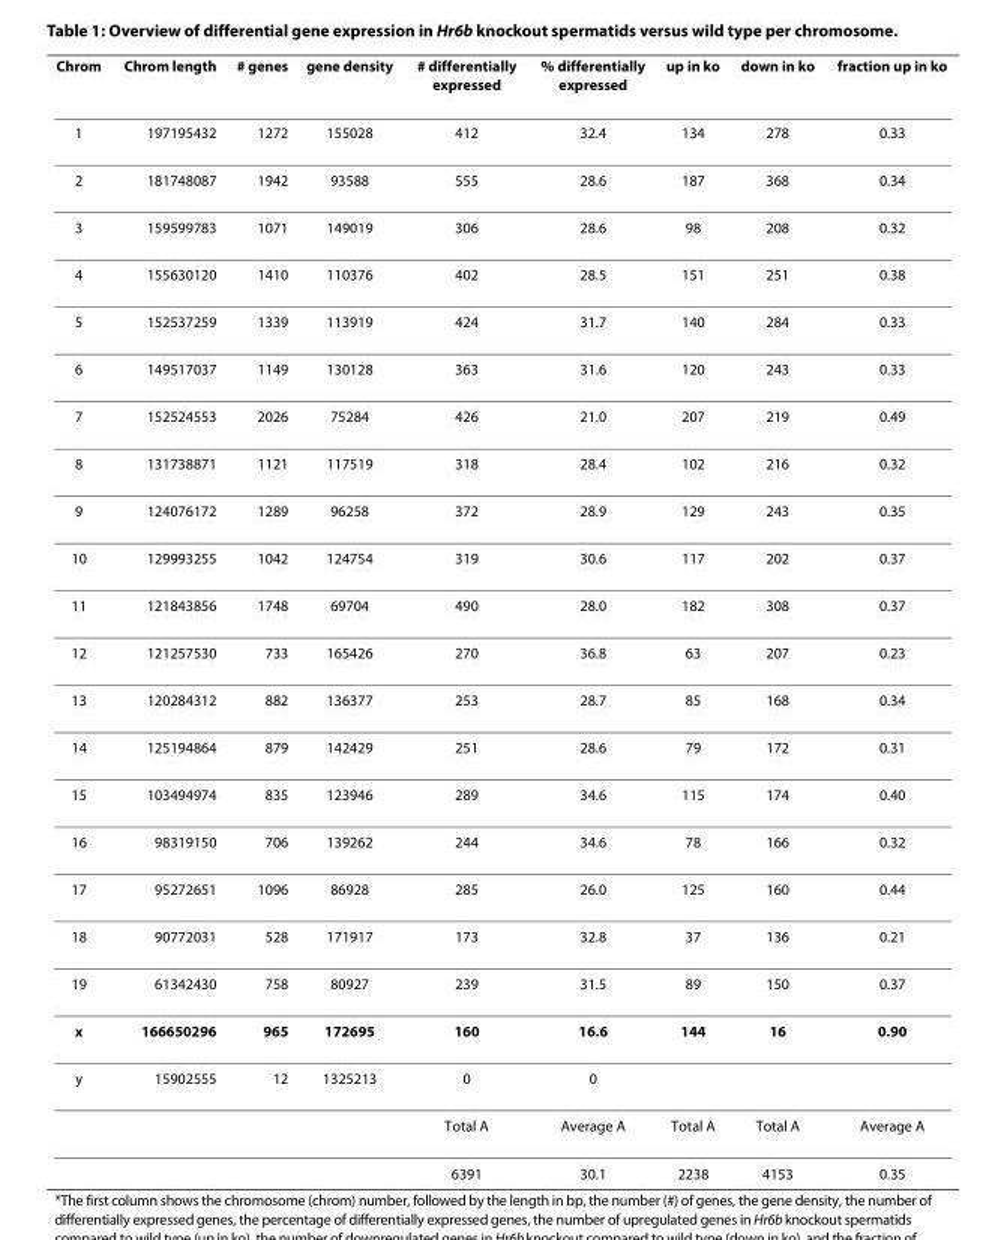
<table><thead><tr><td>Chrom</td><td>Chrom length</td><td># genes</td><td>gene density</td><td># differentially expressed</td><td>% differentially expressed</td><td>up in ko</td><td>down in ko</td><td>fraction up in ko</td></tr></thead><tbody><tr><td>1</td><td>197195432</td><td>1272</td><td>155028</td><td>412</td><td>32.4</td><td>134</td><td>278</td><td>0.33</td></tr><tr><td>2</td><td>181748087</td><td>1942</td><td>93588</td><td>555</td><td>28.6</td><td>187</td><td>368</td><td>0.34</td></tr><tr><td>3</td><td>159599783</td><td>1071</td><td>149019</td><td>306</td><td>28.6</td><td>98</td><td>208</td><td>0.32</td></tr><tr><td>4</td><td>155630120</td><td>1410</td><td>110376</td><td>402</td><td>28.5</td><td>151</td><td>251</td><td>0.38</td></tr><tr><td>5</td><td>152537259</td><td>1339</td><td>113919</td><td>424</td><td>31.7</td><td>140</td><td>284</td><td>0.33</td></tr><tr><td>6</td><td>149517037</td><td>1149</td><td>130128</td><td>363</td><td>31.6</td><td>120</td><td>243</td><td>0.33</td></tr><tr><td>7</td><td>152524553</td><td>2026</td><td>75284</td><td>426</td><td>21.0</td><td>207</td><td>219</td><td>0.49</td></tr><tr><td>8</td><td>131738871</td><td>1121</td><td>117519</td><td>318</td><td>28.4</td><td>102</td><td>216</td><td>0.32</td></tr><tr><td>9</td><td>124076172</td><td>1289</td><td>96258</td><td>372</td><td>28.9</td><td>129</td><td>243</td><td>0.35</td></tr><tr><td>10</td><td>129993255</td><td>1042</td><td>124754</td><td>319</td><td>30.6</td><td>117</td><td>202</td><td>0.37</td></tr><tr><td>11</td><td>121843856</td><td>1748</td><td>69704</td><td>490</td><td>28.0</td><td>182</td><td>308</td><td>0.37</td></tr><tr><td>12</td><td>121257530</td><td>733</td><td>165426</td><td>270</td><td>36.8</td><td>63</td><td>207</td><td>0.23</td></tr><tr><td>13</td><td>120284312</td><td>882</td><td>136377</td><td>253</td><td>28.7</td><td>85</td><td>168</td><td>0.34</td></tr><tr><td>14</td><td>125194864</td><td>879</td><td>142429</td><td>251</td><td>28.6</td><td>79</td><td>172</td><td>0.31</td></tr><tr><td>15</td><td>103494974</td><td>835</td><td>123946</td><td>289</td><td>34.6</td><td>115</td><td>174</td><td>0.40</td></tr><tr><td>16</td><td>98319150</td><td>706</td><td>139262</td><td>244</td><td>34.6</td><td>78</td><td>166</td><td>0.32</td></tr><tr><td>17</td><td>95272651</td><td>1096</td><td>86928</td><td>285</td><td>26.0</td><td>125</td><td>160</td><td>0.44</td></tr><tr><td>18</td><td>90772031</td><td>528</td><td>171917</td><td>173</td><td>32.8</td><td>37</td><td>136</td><td>0.21</td></tr><tr><td>19</td><td>61342430</td><td>758</td><td>80927</td><td>239</td><td>31.5</td><td>89</td><td>150</td><td>0.37</td></tr><tr><td>x</td><td>166650296</td><td>965</td><td>172695</td><td>160</td><td>16.6</td><td>144</td><td>16</td><td>0.90</td></tr><tr><td rowspan="3">y</td><td>15902555</td><td>12</td><td>1325213</td><td>0</td><td>0</td><td></td><td></td><td></td></tr><tr><td></td><td></td><td></td><td>Total A</td><td>Average A</td><td>Total A</td><td>Total A</td><td>Average A</td></tr><tr><td></td><td></td><td></td><td>6391</td><td>30.1</td><td>2238</td><td>4153</td><td>0.35</td></tr></tbody></table>